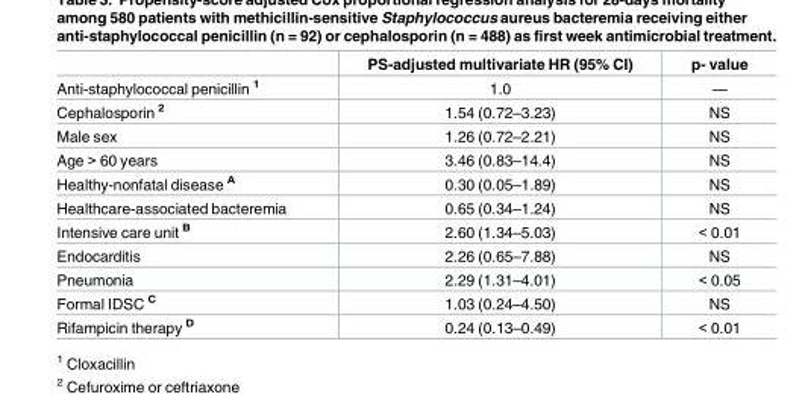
<table><thead><tr><td></td><td>PS-adjusted multivariate HR (95% CI)</td><td>p- value</td></tr></thead><tbody><tr><td>Anti-staphylococcal penicillin <sup>1</sup></td><td>1.0</td><td>—</td></tr><tr><td>Cephalosporin <sup>2</sup></td><td>1.54 (0.72–3.23)</td><td>NS</td></tr><tr><td>Male sex</td><td>1.26 (0.72–2.21)</td><td>NS</td></tr><tr><td>Age &gt; 60 years</td><td>3.46 (0.83–14.4)</td><td>NS</td></tr><tr><td>Healthy-nonfatal disease <sup>A</sup></td><td>0.30 (0.05–1.89)</td><td>NS</td></tr><tr><td>Healthcare-associated bacteremia</td><td>0.65 (0.34–1.24)</td><td>NS</td></tr><tr><td>Intensive care unit <sup>B</sup></td><td>2.60 (1.34–5.03)</td><td>&lt; 0.01</td></tr><tr><td>Endocarditis</td><td>2.26 (0.65–7.88)</td><td>NS</td></tr><tr><td>Pneumonia</td><td>2.29 (1.31–4.01)</td><td>&lt; 0.05</td></tr><tr><td>Formal IDSC <sup>C</sup></td><td>1.03 (0.24–4.50)</td><td>NS</td></tr><tr><td>Rifampicin therapy <sup>D</sup></td><td>0.24 (0.13–0.49)</td><td>&lt; 0.01</td></tr></tbody></table>